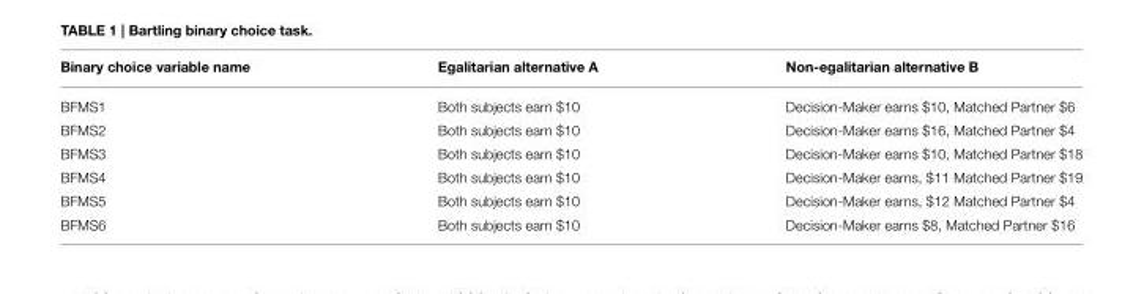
<table><thead><tr><td>Binary choice variable name</td><td>Egalitarian alternative A</td><td>Non-egalitarian alternative B</td></tr></thead><tbody><tr><td>BFMS1</td><td>Both subjects earn $10</td><td>Decision-Maker earns $10, Matched Partner $6</td></tr><tr><td>BFMS2</td><td>Both subjects earn $10</td><td>Decision-Maker earns $16, Matched Partner $4</td></tr><tr><td>BFMS3</td><td>Both subjects earn $10</td><td>Decision-Maker earns $10, Matched Partner $18</td></tr><tr><td>BFMS4</td><td>Both subjects earn $10</td><td>Decision-Maker earns, $11 Matched Partner $19</td></tr><tr><td>BFMS5</td><td>Both subjects earn $10</td><td>Decision-Maker earns, $12 Matched Partner $4</td></tr><tr><td>BFMS6</td><td>Both subjects earn $10</td><td>Decision-Maker earns $8, Matched Partner $16</td></tr></tbody></table>